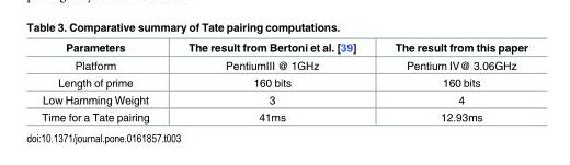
<table><thead><tr><td>Parameters</td><td>The result from Bertoni et al. [39]</td><td>The result from this paper</td></tr></thead><tbody><tr><td>Platform</td><td>PentiumIII @ 1GHz</td><td>Pentium IV@ 3.06GHz</td></tr><tr><td>Length of prime</td><td>160 bits</td><td>160 bits</td></tr><tr><td>Low Hamming Weight</td><td>3</td><td>4</td></tr><tr><td>Time for a Tate pairing</td><td>41ms</td><td>12.93ms</td></tr></tbody></table>